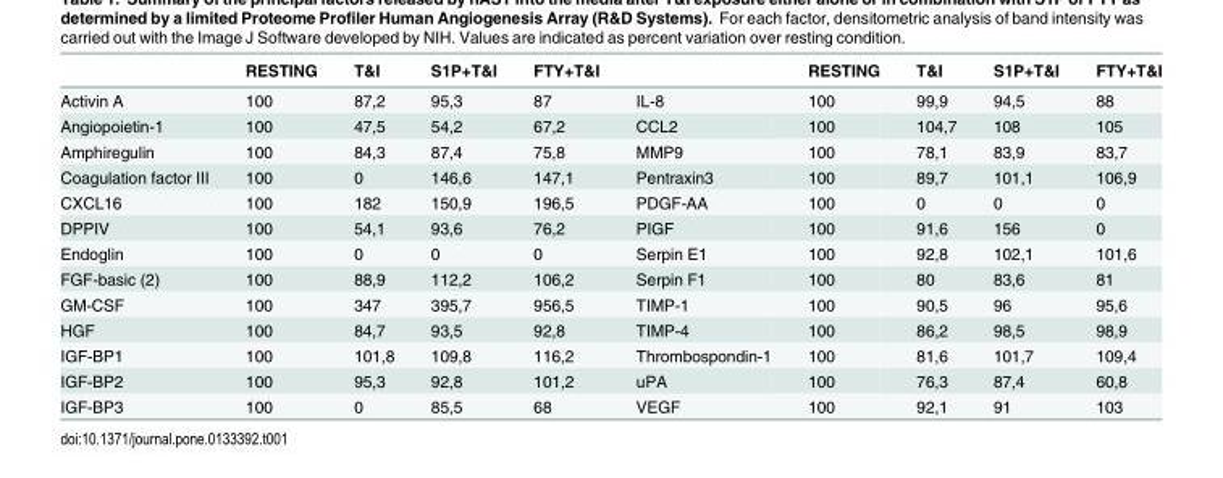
<table><thead><tr><td></td><td>RESTING</td><td>T&amp;I</td><td>S1P+T&amp;I</td><td>FTY+T&amp;I</td><td></td><td>RESTING</td><td>T&amp;I</td><td>S1P+T&amp;I</td><td>FTY+T&amp;I</td></tr></thead><tbody><tr><td>Activin A</td><td>100</td><td>87,2</td><td>95,3</td><td>87</td><td>IL-8</td><td>100</td><td>99,9</td><td>94,5</td><td>88</td></tr><tr><td>Angiopoietin-1</td><td>100</td><td>47,5</td><td>54,2</td><td>67,2</td><td>CCL2</td><td>100</td><td>104,7</td><td>108</td><td>105</td></tr><tr><td>Amphiregulin</td><td>100</td><td>84,3</td><td>87,4</td><td>75,8</td><td>MMP9</td><td>100</td><td>78,1</td><td>83,9</td><td>83,7</td></tr><tr><td>Coagulation factor III</td><td>100</td><td>0</td><td>146,6</td><td>147,1</td><td>Pentraxin3</td><td>100</td><td>89,7</td><td>101,1</td><td>106,9</td></tr><tr><td>CXCL16</td><td>100</td><td>182</td><td>150,9</td><td>196,5</td><td>PDGF-AA</td><td>100</td><td>0</td><td>0</td><td>0</td></tr><tr><td>DPPIV</td><td>100</td><td>54,1</td><td>93,6</td><td>76,2</td><td>PIGF</td><td>100</td><td>91,6</td><td>156</td><td>0</td></tr><tr><td>Endoglin</td><td>100</td><td>0</td><td>0</td><td>0</td><td>Serpin E1</td><td>100</td><td>92,8</td><td>102,1</td><td>101,6</td></tr><tr><td>FGF-basic (2)</td><td>100</td><td>88,9</td><td>112,2</td><td>106,2</td><td>Serpin F1</td><td>100</td><td>80</td><td>83,6</td><td>81</td></tr><tr><td>GM-CSF</td><td>100</td><td>347</td><td>395,7</td><td>956,5</td><td>TIMP-1</td><td>100</td><td>90,5</td><td>96</td><td>95,6</td></tr><tr><td>HGF</td><td>100</td><td>84,7</td><td>93,5</td><td>92,8</td><td>TIMP-4</td><td>100</td><td>86,2</td><td>98,5</td><td>98,9</td></tr><tr><td>IGF-BP1</td><td>100</td><td>101,8</td><td>109,8</td><td>116,2</td><td>Thrombospondin-1</td><td>100</td><td>81,6</td><td>101,7</td><td>109,4</td></tr><tr><td>IGF-BP2</td><td>100</td><td>95,3</td><td>92,8</td><td>101,2</td><td>uPA</td><td>100</td><td>76,3</td><td>87,4</td><td>60,8</td></tr><tr><td>IGF-BP3</td><td>100</td><td>0</td><td>85,5</td><td>68</td><td>VEGF</td><td>100</td><td>92,1</td><td>91</td><td>103</td></tr></tbody></table>